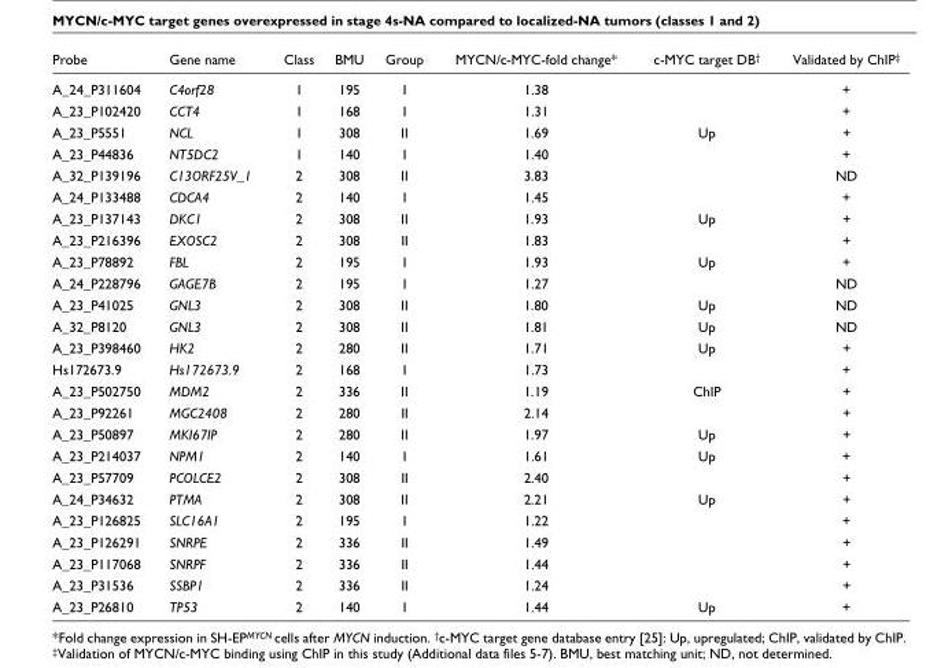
<table><thead><tr><td>Probe</td><td>Gene name</td><td>Class</td><td>BMU</td><td>Group</td><td>MYCN/c-MYC-fold change*</td><td>c-MYC target DB<sup>†</sup></td><td>Validated by ChIP<sup>‡</sup></td></tr></thead><tbody><tr><td>A_24_P311604</td><td>C4orf28</td><td>1</td><td>195</td><td>I</td><td>1.38</td><td></td><td>+</td></tr><tr><td>A_23_P102420</td><td>CCT4</td><td>1</td><td>168</td><td>I</td><td>1.31</td><td></td><td>+</td></tr><tr><td>A_23_P5551</td><td>NCL</td><td>1</td><td>308</td><td>II</td><td>1.69</td><td>Up</td><td>+</td></tr><tr><td>A_23_P44836</td><td>NT5DC2</td><td>1</td><td>140</td><td>I</td><td>1.40</td><td></td><td>+</td></tr><tr><td>A_32_P139196</td><td>C13ORF25V_1</td><td>2</td><td>308</td><td>II</td><td>3.83</td><td></td><td>ND</td></tr><tr><td>A_24_P133488</td><td>CDCA4</td><td>2</td><td>140</td><td>I</td><td>1.45</td><td></td><td>+</td></tr><tr><td>A_23_P137143</td><td>DKC1</td><td>2</td><td>308</td><td>II</td><td>1.93</td><td>Up</td><td>+</td></tr><tr><td>A_23_P216396</td><td>EXOSC2</td><td>2</td><td>308</td><td>II</td><td>1.83</td><td></td><td>+</td></tr><tr><td>A_23_P78892</td><td>FBL</td><td>2</td><td>195</td><td>I</td><td>1.93</td><td>Up</td><td>+</td></tr><tr><td>A_24_P228796</td><td>GAGE7B</td><td>2</td><td>195</td><td>I</td><td>1.27</td><td></td><td>ND</td></tr><tr><td>A_23_P41025</td><td>GNL3</td><td>2</td><td>308</td><td>II</td><td>1.80</td><td>Up</td><td>ND</td></tr><tr><td>A_32_P8120</td><td>GNL3</td><td>2</td><td>308</td><td>II</td><td>1.81</td><td>Up</td><td>ND</td></tr><tr><td>A_23_P398460</td><td>HK2</td><td>2</td><td>280</td><td>II</td><td>1.71</td><td>Up</td><td>+</td></tr><tr><td>Hs172673.9</td><td>Hs172673.9</td><td>2</td><td>168</td><td>I</td><td>1.73</td><td></td><td>+</td></tr><tr><td>A_23_P502750</td><td>MDM2</td><td>2</td><td>336</td><td>II</td><td>1.19</td><td>ChIP</td><td>+</td></tr><tr><td>A_23_P92261</td><td>MGC2408</td><td>2</td><td>280</td><td>II</td><td>2.14</td><td></td><td>+</td></tr><tr><td>A_23_P50897</td><td>MKI67IP</td><td>2</td><td>280</td><td>II</td><td>1.97</td><td>Up</td><td>+</td></tr><tr><td>A_23_P214037</td><td>NPM1</td><td>2</td><td>140</td><td>I</td><td>1.61</td><td>Up</td><td>+</td></tr><tr><td>A_23_P57709</td><td>PCOLCE2</td><td>2</td><td>308</td><td>II</td><td>2.40</td><td></td><td>+</td></tr><tr><td>A_24_P34632</td><td>PTMA</td><td>2</td><td>308</td><td>II</td><td>2.21</td><td>Up</td><td>+</td></tr><tr><td>A_23_P126825</td><td>SLC16A1</td><td>2</td><td>195</td><td>I</td><td>1.22</td><td></td><td>+</td></tr><tr><td>A_23_P126291</td><td>SNRPE</td><td>2</td><td>336</td><td>II</td><td>1.49</td><td></td><td>+</td></tr><tr><td>A_23_P117068</td><td>SNRPF</td><td>2</td><td>336</td><td>II</td><td>1.44</td><td></td><td>+</td></tr><tr><td>A_23_P31536</td><td>SSBP1</td><td>2</td><td>336</td><td>II</td><td>1.24</td><td></td><td>+</td></tr><tr><td>A_23_P26810</td><td>TP53</td><td>2</td><td>140</td><td>I</td><td>1.44</td><td>Up</td><td>+</td></tr></tbody></table>